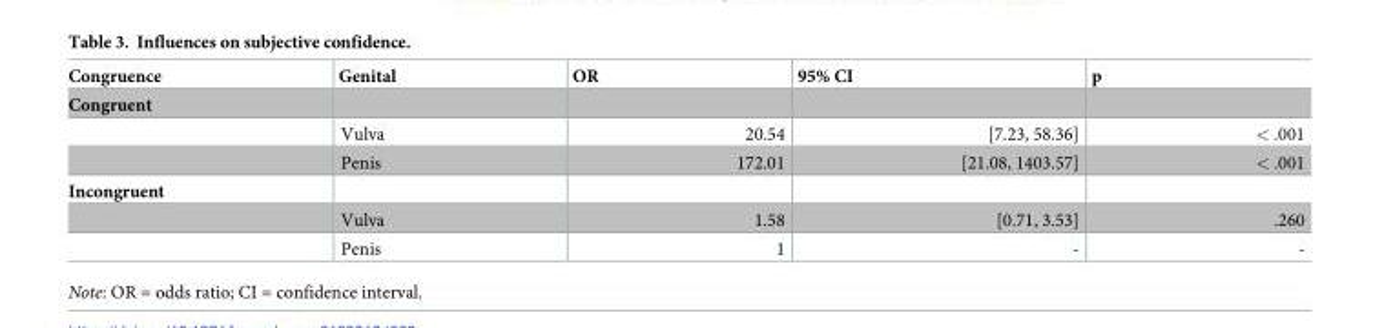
<table><thead><tr><td>Congruence</td><td>Genital</td><td>OR</td><td>95% CI</td><td>p</td></tr></thead><tbody><tr><td colspan="5">Congruent</td></tr><tr><td></td><td>Vulva</td><td>20.54</td><td>[7.23, 58.36]</td><td>&lt; .001</td></tr><tr><td></td><td>Penis</td><td>172.01</td><td>[21.08, 1403.57]</td><td>&lt; .001</td></tr><tr><td colspan="5">Incongruent</td></tr><tr><td></td><td>Vulva</td><td>1.58</td><td>[0.71, 3.53]</td><td>.260</td></tr><tr><td></td><td>Penis</td><td>1</td><td>-</td><td>-</td></tr></tbody></table>